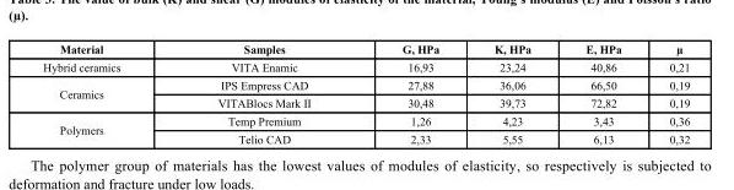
<table><thead><tr><td>Material</td><td>Samples</td><td>G, HPa</td><td>K, HPa</td><td>E, HPa</td><td>µ</td></tr></thead><tbody><tr><td>Hybrid ceramics</td><td>VITA Enamic</td><td>16,93</td><td>23,24</td><td>40,86</td><td>0,21</td></tr><tr><td rowspan="2">Ceramics</td><td>IPS Empress CAD</td><td>27,88</td><td>36,06</td><td>66,50</td><td>0,19</td></tr><tr><td>VITABlocs Mark II</td><td>30,48</td><td>39,73</td><td>72,82</td><td>0,19</td></tr><tr><td rowspan="2">Polymers</td><td>Temp Premium</td><td>1,26</td><td>4,23</td><td>3,43</td><td>0,36</td></tr><tr><td>Telio CAD</td><td>2,33</td><td>5,55</td><td>6,13</td><td>0,32</td></tr></tbody></table>